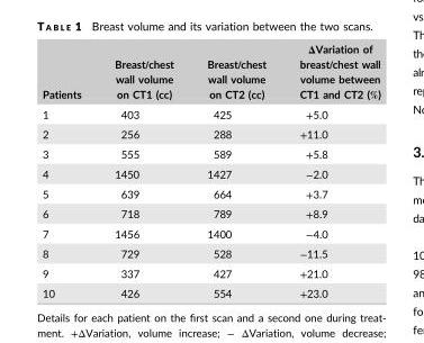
<table><thead><tr><td>Patients</td><td>Breast/chest wall volume on CT1 (cc)</td><td>Breast/chest wall volume on CT2 (cc)</td><td>ΔVariation of breast/chest wall volume between CT1 and CT2 (%)</td></tr></thead><tbody><tr><td>1</td><td>403</td><td>425</td><td>+5.0</td></tr><tr><td>2</td><td>256</td><td>288</td><td>+11.0</td></tr><tr><td>3</td><td>555</td><td>589</td><td>+5.8</td></tr><tr><td>4</td><td>1450</td><td>1427</td><td>−2.0</td></tr><tr><td>5</td><td>639</td><td>664</td><td>+3.7</td></tr><tr><td>6</td><td>718</td><td>789</td><td>+8.9</td></tr><tr><td>7</td><td>1456</td><td>1400</td><td>−4.0</td></tr><tr><td>8</td><td>729</td><td>528</td><td>−11.5</td></tr><tr><td>9</td><td>337</td><td>427</td><td>+21.0</td></tr><tr><td>10</td><td>426</td><td>554</td><td>+23.0</td></tr></tbody></table>